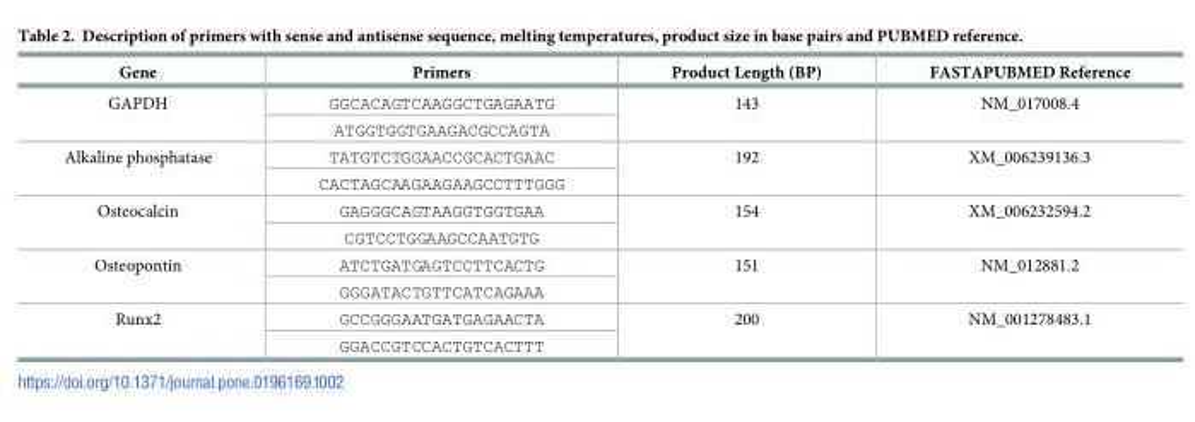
<table><thead><tr><td>Gene</td><td>Primers</td><td>Product Length (BP)</td><td>FASTAPUBMED Reference</td></tr></thead><tbody><tr><td rowspan="2">GAPDH</td><td>GGCACAGTCAAGGCTGAGAATG</td><td rowspan="2">143</td><td rowspan="2">NM_017008.4</td></tr><tr><td>ATGGTGGTGAAGACGCCAGTA</td></tr><tr><td rowspan="2">Alkaline phosphatase</td><td>TATGTCTGGAACCGCACTGAAC</td><td rowspan="2">192</td><td rowspan="2">XM_006239136.3</td></tr><tr><td>CACTAGCAAGAAGAAGCCTTTGGG</td></tr><tr><td rowspan="2">Osteocalcin</td><td>GAGGGCAGTAAGGTGGTGAA</td><td rowspan="2">154</td><td rowspan="2">XM_006232594.2</td></tr><tr><td>CGTCCTGGAAGCCAATGTG</td></tr><tr><td rowspan="2">Osteopontin</td><td>ATCTGATGAGTCCTTCACTG</td><td rowspan="2">151</td><td rowspan="2">NM_012881.2</td></tr><tr><td>GGGATACTGTTCATCAGAAA</td></tr><tr><td rowspan="2">Runx2</td><td>GCCGGGAATGATGAGAACTA</td><td rowspan="2">200</td><td rowspan="2">NM_001278483.1</td></tr><tr><td>GGACCGTCCACTGTCACTTT</td></tr></tbody></table>